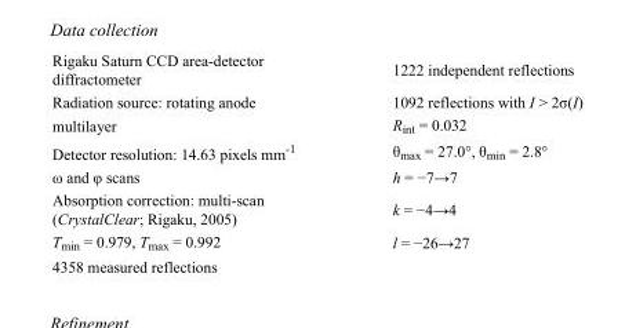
<table><tbody><tr><td>Rigaku Saturn CCD area-detector diffractometer</td><td>1222 independent reflections</td></tr><tr><td>Radiation source: rotating anode</td><td>1092 reflections with I &gt; 2σ(I)</td></tr><tr><td>multilayer</td><td>R<sub>int</sub> = 0.032</td></tr><tr><td>Detector resolution: 14.63 pixels mm<sup>-1</sup></td><td>θ<sub>max</sub> = 27.0°, θ<sub>min</sub> = 2.8°</td></tr><tr><td>ω and φ scans</td><td>h = −7→7</td></tr><tr><td>Absorption correction: multi-scan (CrystalClear; Rigaku, 2005)</td><td>k = −4→4</td></tr><tr><td>T<sub>min</sub> = 0.979, T<sub>max</sub> = 0.992</td><td>l = −26→27</td></tr><tr><td>4358 measured reflections</td><td></td></tr></tbody></table>